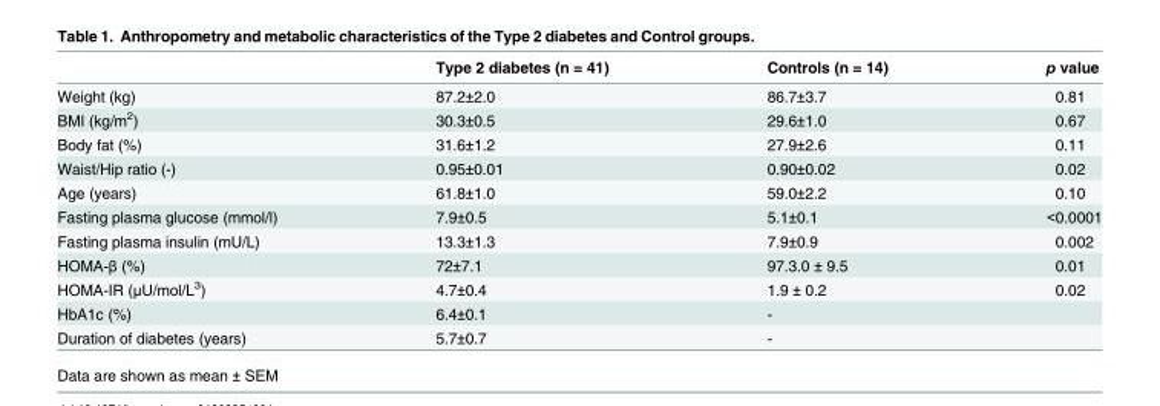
<table><thead><tr><td></td><td>Type 2 diabetes (n = 41)</td><td>Controls (n = 14)</td><td>p value</td></tr></thead><tbody><tr><td>Weight (kg)</td><td>87.2±2.0</td><td>86.7±3.7</td><td>0.81</td></tr><tr><td>BMI (kg/m<sup>2</sup>)</td><td>30.3±0.5</td><td>29.6±1.0</td><td>0.67</td></tr><tr><td>Body fat (%)</td><td>31.6±1.2</td><td>27.9±2.6</td><td>0.11</td></tr><tr><td>Waist/Hip ratio (-)</td><td>0.95±0.01</td><td>0.90±0.02</td><td>0.02</td></tr><tr><td>Age (years)</td><td>61.8±1.0</td><td>59.0±2.2</td><td>0.10</td></tr><tr><td>Fasting plasma glucose (mmol/l)</td><td>7.9±0.5</td><td>5.1±0.1</td><td>&lt;0.0001</td></tr><tr><td>Fasting plasma insulin (mU/L)</td><td>13.3±1.3</td><td>7.9±0.9</td><td>0.002</td></tr><tr><td>HOMA-β (%)</td><td>72±7.1</td><td>97.3.0 ± 9.5</td><td>0.01</td></tr><tr><td>HOMA-IR (μU/mol/L<sup>3</sup>)</td><td>4.7±0.4</td><td>1.9 ± 0.2</td><td>0.02</td></tr><tr><td>HbA1c (%)</td><td>6.4±0.1</td><td>-</td><td></td></tr><tr><td>Duration of diabetes (years)</td><td>5.7±0.7</td><td>-</td><td></td></tr></tbody></table>